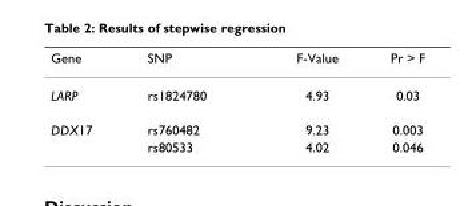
<table><thead><tr><td>Gene</td><td>SNP</td><td>F-Value</td><td>Pr &gt; F</td></tr></thead><tbody><tr><td>LARP</td><td>rs1824780</td><td>4.93</td><td>0.03</td></tr><tr><td rowspan="2">DDX17</td><td>rs760482</td><td>9.23</td><td>0.003</td></tr><tr><td>rs80533</td><td>4.02</td><td>0.046</td></tr></tbody></table>